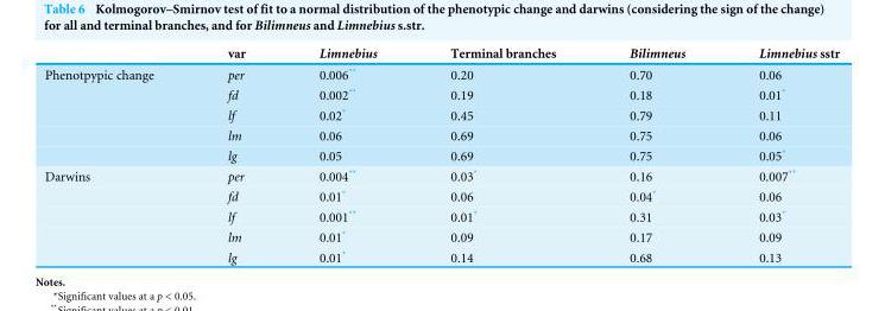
<table><thead><tr><td></td><td>var</td><td>Limnebius</td><td>Terminal branches</td><td>Bilimneus</td><td>Limnebius sstr</td></tr></thead><tbody><tr><td rowspan="5">Phenotpypic change</td><td>per</td><td>0.006**</td><td>0.20</td><td>0.70</td><td>0.06</td></tr><tr><td>fd</td><td>0.002**</td><td>0.19</td><td>0.18</td><td>0.01*</td></tr><tr><td>lf</td><td>0.02*</td><td>0.45</td><td>0.79</td><td>0.11</td></tr><tr><td>lm</td><td>0.06</td><td>0.69</td><td>0.75</td><td>0.06</td></tr><tr><td>lg</td><td>0.05</td><td>0.69</td><td>0.75</td><td>0.05*</td></tr><tr><td rowspan="5">Darwins</td><td>per</td><td>0.004**</td><td>0.03*</td><td>0.16</td><td>0.007**</td></tr><tr><td>fd</td><td>0.01*</td><td>0.06</td><td>0.04*</td><td>0.06</td></tr><tr><td>lf</td><td>0.001**</td><td>0.01*</td><td>0.31</td><td>0.03*</td></tr><tr><td>lm</td><td>0.01*</td><td>0.09</td><td>0.17</td><td>0.09</td></tr><tr><td>lg</td><td>0.01*</td><td>0.14</td><td>0.68</td><td>0.13</td></tr></tbody></table>